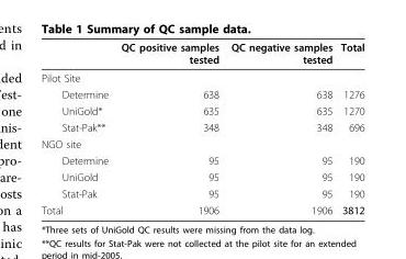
<table><thead><tr><td></td><td>QC positive samples tested</td><td>QC negative samples tested</td><td>Total</td></tr></thead><tbody><tr><td colspan="4">Pilot Site</td></tr><tr><td>Determine</td><td>638</td><td>638</td><td>1276</td></tr><tr><td>UniGold*</td><td>635</td><td>635</td><td>1270</td></tr><tr><td>Stat-Pak**</td><td>348</td><td>348</td><td>696</td></tr><tr><td colspan="4">NGO site</td></tr><tr><td>Determine</td><td>95</td><td>95</td><td>190</td></tr><tr><td>UniGold</td><td>95</td><td>95</td><td>190</td></tr><tr><td>Stat-Pak</td><td>95</td><td>95</td><td>190</td></tr><tr><td>Total</td><td>1906</td><td>1906</td><td>3812</td></tr></tbody></table>